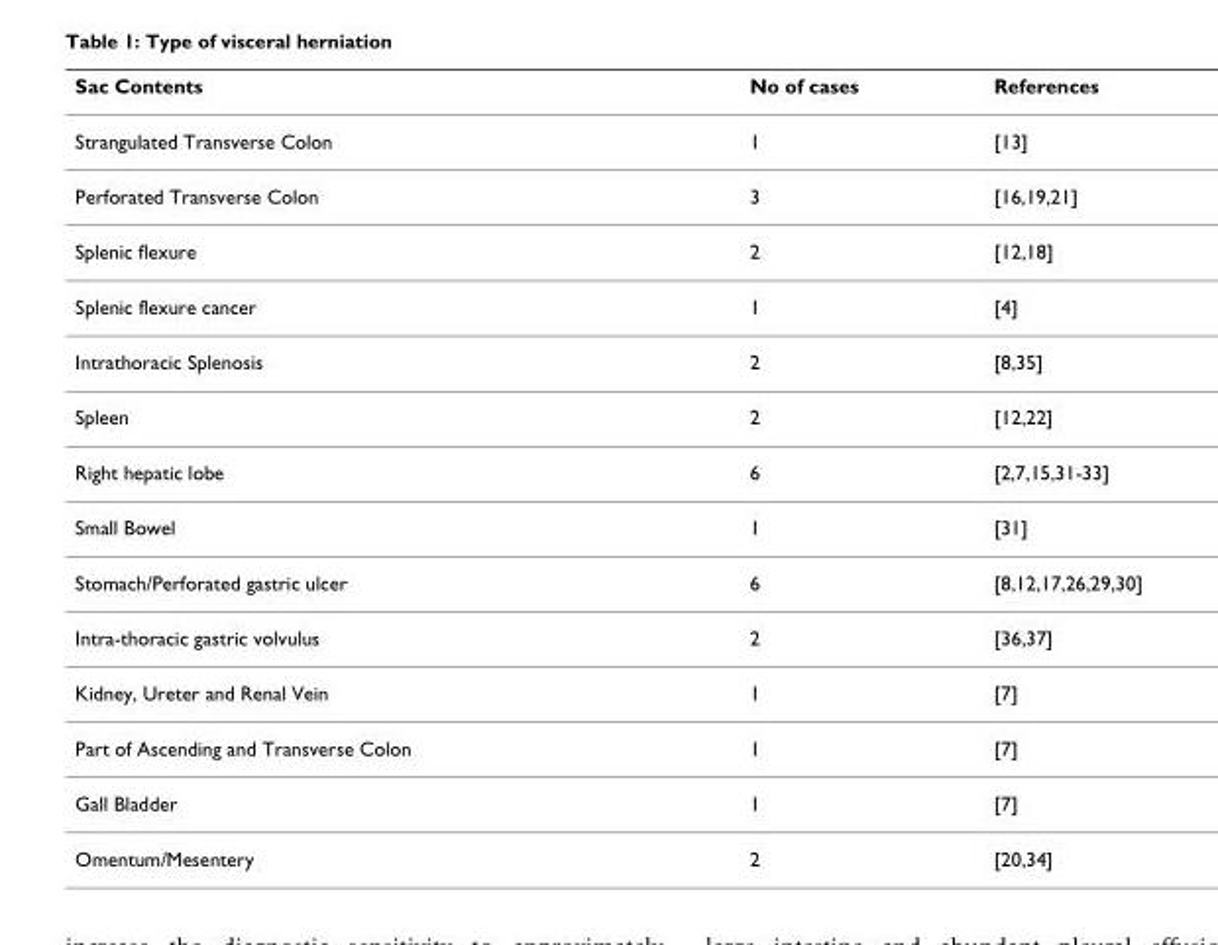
<table><thead><tr><td>Sac Contents</td><td>No of cases</td><td>References</td></tr></thead><tbody><tr><td>Strangulated Transverse Colon</td><td>1</td><td>[13]</td></tr><tr><td>Perforated Transverse Colon</td><td>3</td><td>[16,19,21]</td></tr><tr><td>Splenic flexure</td><td>2</td><td>[12,18]</td></tr><tr><td>Splenic flexure cancer</td><td>1</td><td>[4]</td></tr><tr><td>Intrathoracic Splenosis</td><td>2</td><td>[8,35]</td></tr><tr><td>Spleen</td><td>2</td><td>[12,22]</td></tr><tr><td>Right hepatic lobe</td><td>6</td><td>[2,7,15,31-33]</td></tr><tr><td>Small Bowel</td><td>1</td><td>[31]</td></tr><tr><td>Stomach/Perforated gastric ulcer</td><td>6</td><td>[8,12,17,26,29,30]</td></tr><tr><td>Intra-thoracic gastric volvulus</td><td>2</td><td>[36,37]</td></tr><tr><td>Kidney, Ureter and Renal Vein</td><td>1</td><td>[7]</td></tr><tr><td>Part of Ascending and Transverse Colon</td><td>1</td><td>[7]</td></tr><tr><td>Gall Bladder</td><td>1</td><td>[7]</td></tr><tr><td>Omentum/Mesentery</td><td>2</td><td>[20,34]</td></tr></tbody></table>